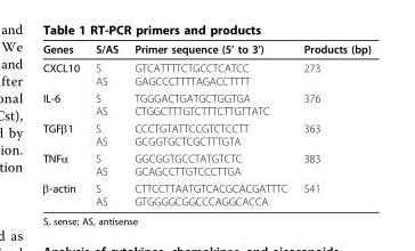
<table><thead><tr><td>Genes</td><td>S/AS</td><td>Primer sequence (5’ to 3’)</td><td>Products (bp)</td></tr></thead><tbody><tr><td>CXCL10</td><td>S AS</td><td>GTCATTTTCTGCCTCATCC GAGCCCTTTTAGACCTTTT</td><td>273</td></tr><tr><td>IL-6</td><td>S AS</td><td>TGGGACTGATGCTGGTGA CTGGCTTTGTCTTTCTTGTTATC</td><td>376</td></tr><tr><td>TGFβ1</td><td>S AS</td><td>CCCTGTATTCCGTCTCCTT GCGGTGCTCGCTTTGTA</td><td>363</td></tr><tr><td>TNFα</td><td>S AS</td><td>GGCGGTGCCTATGTCTC GCAGCCTTGTCCCTTGA</td><td>383</td></tr><tr><td>β-actin</td><td>S AS</td><td>CTTCCTTAATGTCACGCACGATTTC GTGGGGCGGCCCAGGCACCA</td><td>541</td></tr></tbody></table>